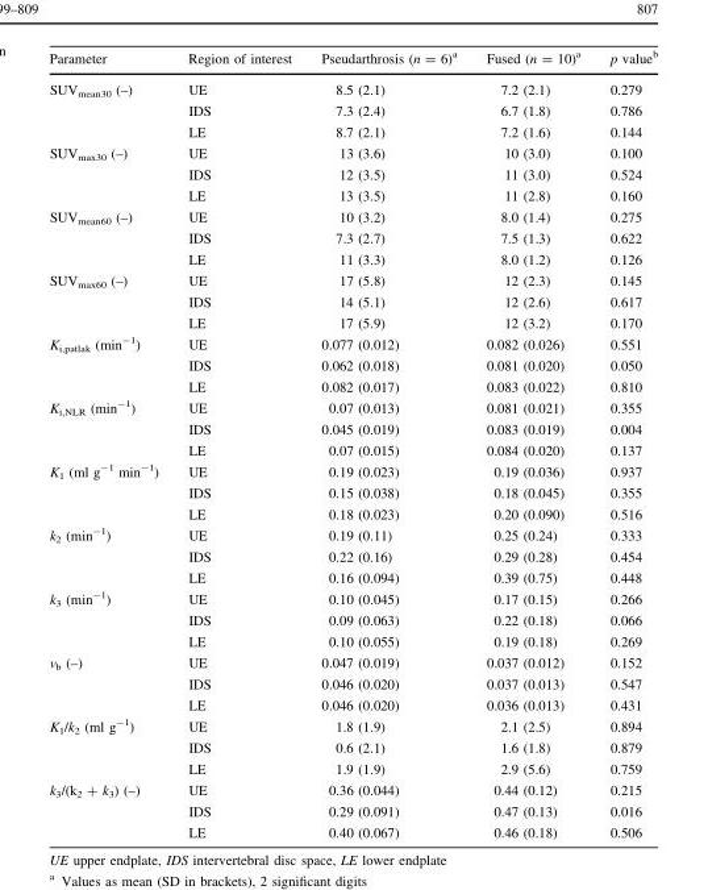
<table><thead><tr><td>Parameter</td><td>Region of interest</td><td>Pseudarthrosis (n = 6)<sup>a</sup></td><td>Fused (n = 10)<sup>a</sup></td><td>p value<sup>b</sup></td></tr></thead><tbody><tr><td rowspan="3">SUV<sub>mean30</sub> (–)</td><td>UE</td><td>8.5 (2.1)</td><td>7.2 (2.1)</td><td>0.279</td></tr><tr><td>IDS</td><td>7.3 (2.4)</td><td>6.7 (1.8)</td><td>0.786</td></tr><tr><td>LE</td><td>8.7 (2.1)</td><td>7.2 (1.6)</td><td>0.144</td></tr><tr><td rowspan="3">SUV<sub>max30</sub> (–)</td><td>UE</td><td>13 (3.6)</td><td>10 (3.0)</td><td>0.100</td></tr><tr><td>IDS</td><td>12 (3.5)</td><td>11 (3.0)</td><td>0.524</td></tr><tr><td>LE</td><td>13 (3.5)</td><td>11 (2.8)</td><td>0.160</td></tr><tr><td rowspan="3">SUV<sub>mean60</sub> (–)</td><td>UE</td><td>10 (3.2)</td><td>8.0 (1.4)</td><td>0.275</td></tr><tr><td>IDS</td><td>7.3 (2.7)</td><td>7.5 (1.3)</td><td>0.622</td></tr><tr><td>LE</td><td>11 (3.3)</td><td>8.0 (1.2)</td><td>0.126</td></tr><tr><td rowspan="3">SUV<sub>max60</sub> (–)</td><td>UE</td><td>17 (5.8)</td><td>12 (2.3)</td><td>0.145</td></tr><tr><td>IDS</td><td>14 (5.1)</td><td>12 (2.6)</td><td>0.617</td></tr><tr><td>LE</td><td>17 (5.9)</td><td>12 (3.2)</td><td>0.170</td></tr><tr><td rowspan="3">K<sub>i,patlak</sub> (min<sup>-1</sup>)</td><td>UE</td><td>0.077 (0.012)</td><td>0.082 (0.026)</td><td>0.551</td></tr><tr><td>IDS</td><td>0.062 (0.018)</td><td>0.081 (0.020)</td><td>0.050</td></tr><tr><td>LE</td><td>0.082 (0.017)</td><td>0.083 (0.022)</td><td>0.810</td></tr><tr><td rowspan="3">K<sub>i,NLR</sub> (min<sup>-1</sup>)</td><td>UE</td><td>0.07 (0.013)</td><td>0.081 (0.021)</td><td>0.355</td></tr><tr><td>IDS</td><td>0.045 (0.019)</td><td>0.083 (0.019)</td><td>0.004</td></tr><tr><td>LE</td><td>0.07 (0.015)</td><td>0.084 (0.020)</td><td>0.137</td></tr><tr><td rowspan="3">K<sub>1</sub> (ml g<sup>-1</sup> min<sup>-1</sup>)</td><td>UE</td><td>0.19 (0.023)</td><td>0.19 (0.036)</td><td>0.937</td></tr><tr><td>IDS</td><td>0.15 (0.038)</td><td>0.18 (0.045)</td><td>0.355</td></tr><tr><td>LE</td><td>0.18 (0.023)</td><td>0.20 (0.090)</td><td>0.516</td></tr><tr><td rowspan="3">k<sub>2</sub> (min<sup>-1</sup>)</td><td>UE</td><td>0.19 (0.11)</td><td>0.25 (0.24)</td><td>0.333</td></tr><tr><td>IDS</td><td>0.22 (0.16)</td><td>0.29 (0.28)</td><td>0.454</td></tr><tr><td>LE</td><td>0.16 (0.094)</td><td>0.39 (0.75)</td><td>0.448</td></tr><tr><td rowspan="3">k<sub>3</sub> (min<sup>-1</sup>)</td><td>UE</td><td>0.10 (0.045)</td><td>0.17 (0.15)</td><td>0.266</td></tr><tr><td>IDS</td><td>0.09 (0.063)</td><td>0.22 (0.18)</td><td>0.066</td></tr><tr><td>LE</td><td>0.10 (0.055)</td><td>0.19 (0.18)</td><td>0.269</td></tr><tr><td rowspan="3">v<sub>b</sub> (–)</td><td>UE</td><td>0.047 (0.019)</td><td>0.037 (0.012)</td><td>0.152</td></tr><tr><td>IDS</td><td>0.046 (0.020)</td><td>0.037 (0.013)</td><td>0.547</td></tr><tr><td>LE</td><td>0.046 (0.020)</td><td>0.036 (0.013)</td><td>0.431</td></tr><tr><td rowspan="3">K<sub>1</sub>/k<sub>2</sub> (ml g<sup>-1</sup>)</td><td>UE</td><td>1.8 (1.9)</td><td>2.1 (2.5)</td><td>0.894</td></tr><tr><td>IDS</td><td>0.6 (2.1)</td><td>1.6 (1.8)</td><td>0.879</td></tr><tr><td>LE</td><td>1.9 (1.9)</td><td>2.9 (5.6)</td><td>0.759</td></tr><tr><td rowspan="3">k<sub>3</sub>/(k<sub>2</sub> + k<sub>3</sub>) (–)</td><td>UE</td><td>0.36 (0.044)</td><td>0.44 (0.12)</td><td>0.215</td></tr><tr><td>IDS</td><td>0.29 (0.091)</td><td>0.47 (0.13)</td><td>0.016</td></tr><tr><td>LE</td><td>0.40 (0.067)</td><td>0.46 (0.18)</td><td>0.506</td></tr></tbody></table>